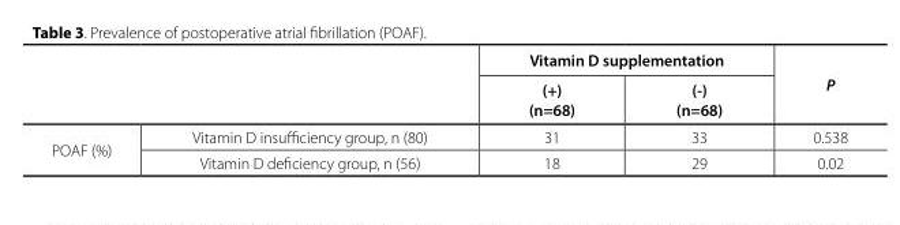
<table><thead><tr><td rowspan="2"></td><td rowspan="2"></td><td colspan="2">Vitamin D supplementation</td><td rowspan="2">P</td></tr><tr><td>(+) (n=68)</td><td>(-) (n=68)</td></tr></thead><tbody><tr><td rowspan="2">POAF (%)</td><td>Vitamin D insufficiency group, n (80)</td><td>31</td><td>33</td><td>0.538</td></tr><tr><td>Vitamin D deficiency group, n (56)</td><td>18</td><td>29</td><td>0.02</td></tr></tbody></table>